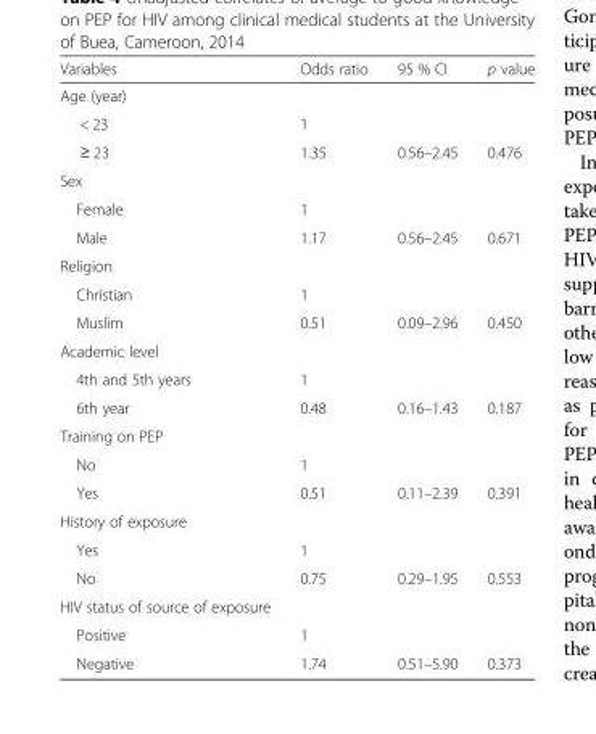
<table><thead><tr><td>Variables</td><td>Odds ratio</td><td>95 % CI</td><td>p value</td></tr></thead><tbody><tr><td colspan="4">Age (year)</td></tr><tr><td>&lt; 23</td><td>1</td><td></td><td></td></tr><tr><td>≥ 23</td><td>1.35</td><td>0.56–2.45</td><td>0.476</td></tr><tr><td colspan="4">Sex</td></tr><tr><td>Female</td><td>1</td><td></td><td></td></tr><tr><td>Male</td><td>1.17</td><td>0.56–2.45</td><td>0.671</td></tr><tr><td colspan="4">Religion</td></tr><tr><td>Christian</td><td>1</td><td></td><td></td></tr><tr><td>Muslim</td><td>0.51</td><td>0.09–2.96</td><td>0.450</td></tr><tr><td colspan="4">Academic level</td></tr><tr><td>4th and 5th years</td><td>1</td><td></td><td></td></tr><tr><td>6th year</td><td>0.48</td><td>0.16–1.43</td><td>0.187</td></tr><tr><td colspan="4">Training on PEP</td></tr><tr><td>No</td><td>1</td><td></td><td></td></tr><tr><td>Yes</td><td>0.51</td><td>0.11–2.39</td><td>0.391</td></tr><tr><td colspan="4">History of exposure</td></tr><tr><td>Yes</td><td>1</td><td></td><td></td></tr><tr><td>No</td><td>0.75</td><td>0.29–1.95</td><td>0.553</td></tr><tr><td colspan="4">HIV status of source of exposure</td></tr><tr><td>Positive</td><td>1</td><td></td><td></td></tr><tr><td>Negative</td><td>1.74</td><td>0.51–5.90</td><td>0.373</td></tr></tbody></table>